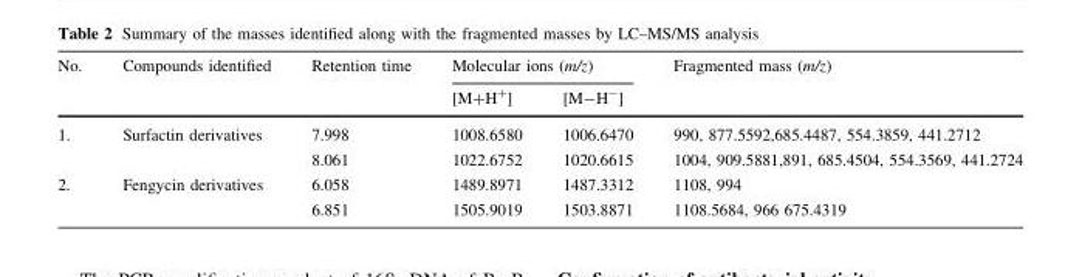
<table><thead><tr><td rowspan="2">No.</td><td rowspan="2">Compounds identified</td><td rowspan="2">Retention time</td><td colspan="2">Molecular ions (m/z)</td><td rowspan="2">Fragmented mass (m/z)</td></tr><tr><td>[M+H<sup>+</sup>]</td><td>[M-H<sup>-</sup>]</td></tr></thead><tbody><tr><td rowspan="2">1.</td><td rowspan="2">Surfactin derivatives</td><td>7.998</td><td>1008.6580</td><td>1006.6470</td><td>990, 877.5592,685.4487, 554.3859, 441.2712</td></tr><tr><td>8.061</td><td>1022.6752</td><td>1020.6615</td><td>1004, 909.5881,891, 685.4504, 554.3569, 441.2724</td></tr><tr><td rowspan="2">2.</td><td rowspan="2">Fengycin derivatives</td><td>6.058</td><td>1489.8971</td><td>1487.3312</td><td>1108, 994</td></tr><tr><td>6.851</td><td>1505.9019</td><td>1503.8871</td><td>1108.5684, 966 675.4319</td></tr></tbody></table>